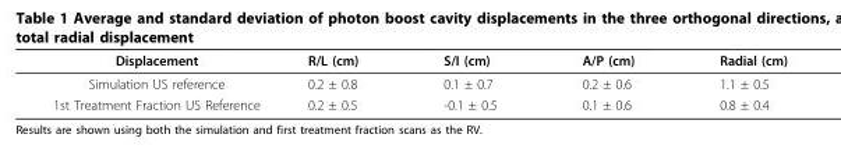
<table><thead><tr><td>Displacement</td><td>R/L (cm)</td><td>S/I (cm)</td><td>A/P (cm)</td><td>Radial (cm)</td></tr></thead><tbody><tr><td>Simulation US reference</td><td>0.2 ± 0.8</td><td>0.1 ± 0.7</td><td>0.2 ± 0.6</td><td>1.1 ± 0.5</td></tr><tr><td>1st Treatment Fraction US Reference</td><td>0.2 ± 0.5</td><td>-0.1 ± 0.5</td><td>0.1 ± 0.6</td><td>0.8 ± 0.4</td></tr></tbody></table>